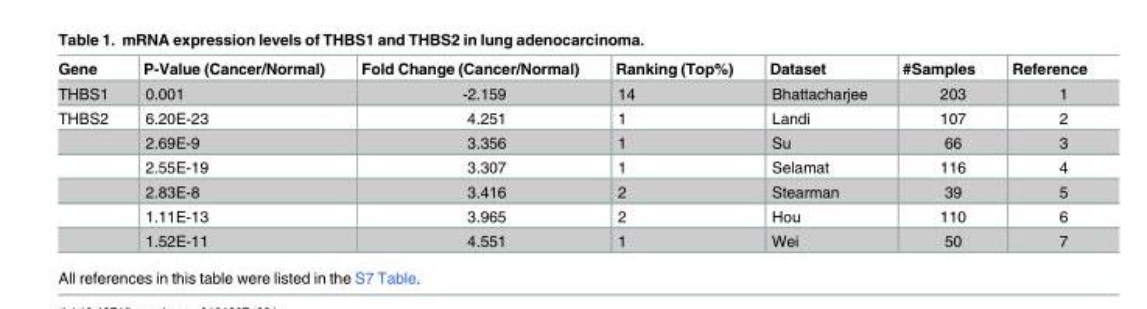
<table><thead><tr><td>Gene</td><td>P-Value (Cancer/Normal)</td><td>Fold Change (Cancer/Normal)</td><td>Ranking (Top%)</td><td>Dataset</td><td>#Samples</td><td>Reference</td></tr></thead><tbody><tr><td>THBS1</td><td>0.001</td><td>-2.159</td><td>14</td><td>Bhattacharjee</td><td>203</td><td>1</td></tr><tr><td rowspan="6">THBS2</td><td>6.20E-23</td><td>4.251</td><td>1</td><td>Landi</td><td>107</td><td>2</td></tr><tr><td>2.69E-9</td><td>3.356</td><td>1</td><td>Su</td><td>66</td><td>3</td></tr><tr><td>2.55E-19</td><td>3.307</td><td>1</td><td>Selamat</td><td>116</td><td>4</td></tr><tr><td>2.83E-8</td><td>3.416</td><td>2</td><td>Stearman</td><td>39</td><td>5</td></tr><tr><td>1.11E-13</td><td>3.965</td><td>2</td><td>Hou</td><td>110</td><td>6</td></tr><tr><td>1.52E-11</td><td>4.551</td><td>1</td><td>Wei</td><td>50</td><td>7</td></tr></tbody></table>